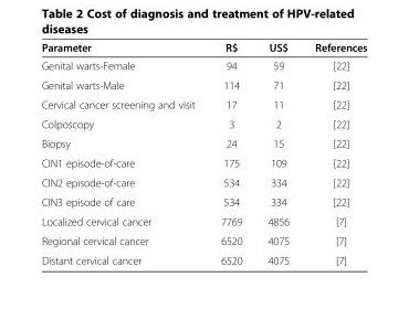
<table><thead><tr><td>Parameter</td><td>R$</td><td>US$</td><td>References</td></tr></thead><tbody><tr><td>Genital warts-Female</td><td>94</td><td>59</td><td>[22]</td></tr><tr><td>Genital warts-Male</td><td>114</td><td>71</td><td>[22]</td></tr><tr><td>Cervical cancer screening and visit</td><td>17</td><td>11</td><td>[22]</td></tr><tr><td>Colposcopy</td><td>3</td><td>2</td><td>[22]</td></tr><tr><td>Biopsy</td><td>24</td><td>15</td><td>[22]</td></tr><tr><td>CIN1 episode-of-care</td><td>175</td><td>109</td><td>[22]</td></tr><tr><td>CIN2 episode-of-care</td><td>534</td><td>334</td><td>[22]</td></tr><tr><td>CIN3 episode of care</td><td>534</td><td>334</td><td>[22]</td></tr><tr><td>Localized cervical cancer</td><td>7769</td><td>4856</td><td>[7]</td></tr><tr><td>Regional cervical cancer</td><td>6520</td><td>4075</td><td>[7]</td></tr><tr><td>Distant cervical cancer</td><td>6520</td><td>4075</td><td>[7]</td></tr></tbody></table>